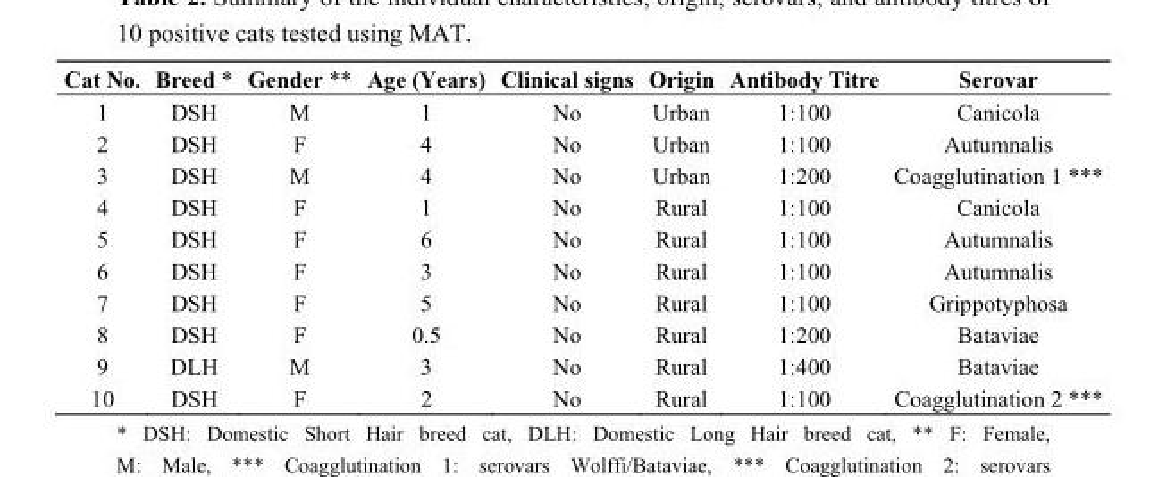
<table><thead><tr><td>Cat No.</td><td>Breed *</td><td>Gender **</td><td>Age (Years)</td><td>Clinical signs</td><td>Origin</td><td>Antibody Titre</td><td>Serovar</td></tr></thead><tbody><tr><td>1</td><td>DSH</td><td>M</td><td>1</td><td>No</td><td>Urban</td><td>1:100</td><td>Canicola</td></tr><tr><td>2</td><td>DSH</td><td>F</td><td>4</td><td>No</td><td>Urban</td><td>1:100</td><td>Autumnalis</td></tr><tr><td>3</td><td>DSH</td><td>M</td><td>4</td><td>No</td><td>Urban</td><td>1:200</td><td>Coagglutination 1 ***</td></tr><tr><td>4</td><td>DSH</td><td>F</td><td>1</td><td>No</td><td>Rural</td><td>1:100</td><td>Canicola</td></tr><tr><td>5</td><td>DSH</td><td>F</td><td>6</td><td>No</td><td>Rural</td><td>1:100</td><td>Autumnalis</td></tr><tr><td>6</td><td>DSH</td><td>F</td><td>3</td><td>No</td><td>Rural</td><td>1:100</td><td>Autumnalis</td></tr><tr><td>7</td><td>DSH</td><td>F</td><td>5</td><td>No</td><td>Rural</td><td>1:100</td><td>Grippotyphosa</td></tr><tr><td>8</td><td>DSH</td><td>F</td><td>0.5</td><td>No</td><td>Rural</td><td>1:200</td><td>Bataviae</td></tr><tr><td>9</td><td>DLH</td><td>M</td><td>3</td><td>No</td><td>Rural</td><td>1:400</td><td>Bataviae</td></tr><tr><td>10</td><td>DSH</td><td>F</td><td>2</td><td>No</td><td>Rural</td><td>1:100</td><td>Coagglutination 2 ***</td></tr></tbody></table>